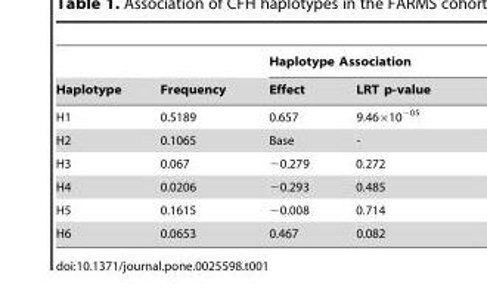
<table><thead><tr><td rowspan="2">Haplotype</td><td rowspan="2">Frequency</td><td colspan="2">Haplotype Association</td></tr><tr><td>Effect</td><td>LRT p-value</td></tr></thead><tbody><tr><td>H1</td><td>0.5189</td><td>0.657</td><td>9.46×10<sup>−05</sup></td></tr><tr><td>H2</td><td>0.1065</td><td>Base</td><td>-</td></tr><tr><td>H3</td><td>0.067</td><td>−0.279</td><td>0.272</td></tr><tr><td>H4</td><td>0.0206</td><td>−0.293</td><td>0.485</td></tr><tr><td>H5</td><td>0.1615</td><td>−0.008</td><td>0.714</td></tr><tr><td>H6</td><td>0.0653</td><td>0.467</td><td>0.082</td></tr></tbody></table>